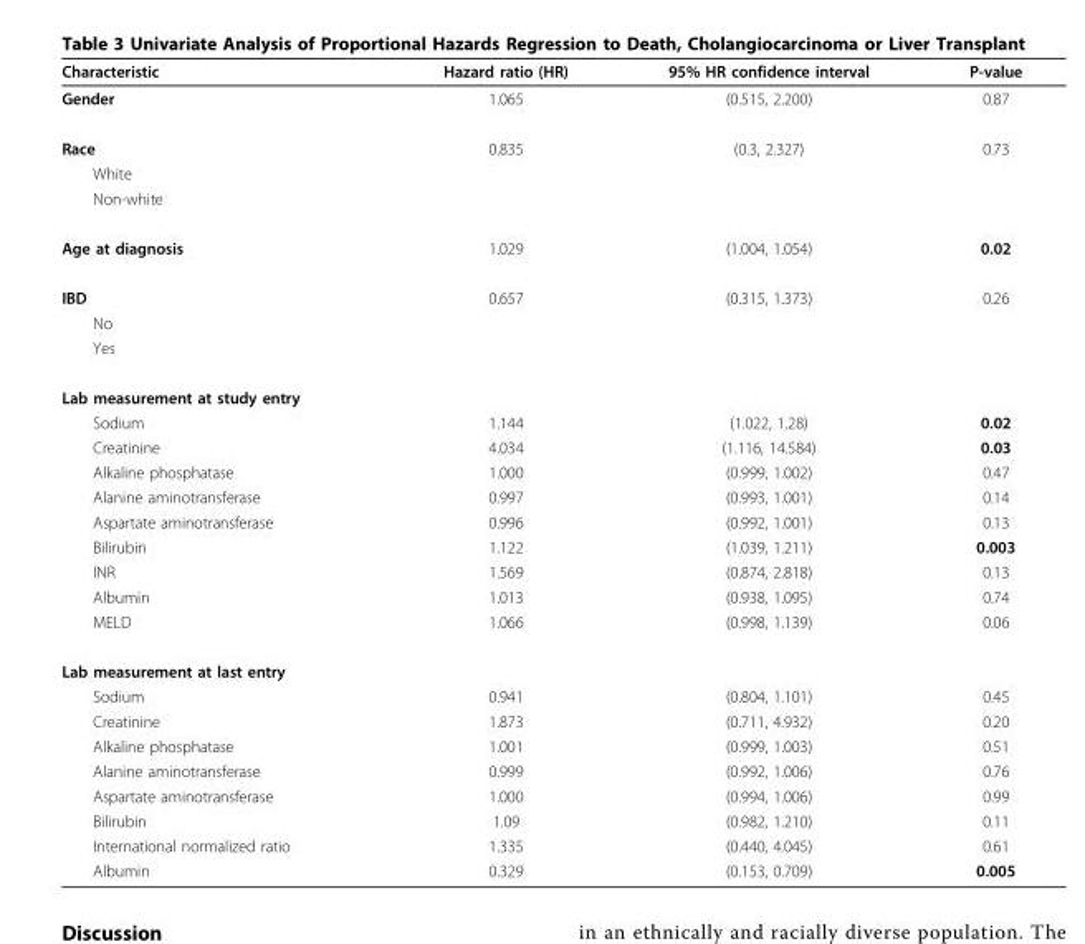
<table><thead><tr><td>Characteristic</td><td>Hazard ratio (HR)</td><td>95% HR confidence interval</td><td>P-value</td></tr></thead><tbody><tr><td>Gender</td><td>1.065</td><td>(0.515, 2.200)</td><td>0.87</td></tr><tr><td>Race</td><td>0.835</td><td>(0.3, 2.327)</td><td>0.73</td></tr><tr><td colspan="4">White</td></tr><tr><td colspan="4">Non-white</td></tr><tr><td>Age at diagnosis</td><td>1.029</td><td>(1.004, 1.054)</td><td>0.02</td></tr><tr><td>IBD</td><td>0.657</td><td>(0.315, 1.373)</td><td>0.26</td></tr><tr><td colspan="4">No</td></tr><tr><td colspan="4">Yes</td></tr><tr><td colspan="4">Lab measurement at study entry</td></tr><tr><td>Sodium</td><td>1.144</td><td>(1.022, 1.28)</td><td>0.02</td></tr><tr><td>Creatinine</td><td>4.034</td><td>(1.116, 14.584)</td><td>0.03</td></tr><tr><td>Alkaline phosphatase</td><td>1.000</td><td>(0.999, 1.002)</td><td>0.47</td></tr><tr><td>Alanine aminotransferase</td><td>0.997</td><td>(0.993, 1.001)</td><td>0.14</td></tr><tr><td>Aspartate aminotransferase</td><td>0.996</td><td>(0.992, 1.001)</td><td>0.13</td></tr><tr><td>Bilirubin</td><td>1.122</td><td>(1.039, 1.211)</td><td>0.003</td></tr><tr><td>INR</td><td>1.569</td><td>(0.874, 2.818)</td><td>0.13</td></tr><tr><td>Albumin</td><td>1.013</td><td>(0.938, 1.095)</td><td>0.74</td></tr><tr><td>MELD</td><td>1.066</td><td>(0.998, 1.139)</td><td>0.06</td></tr><tr><td colspan="4">Lab measurement at last entry</td></tr><tr><td>Sodium</td><td>0.941</td><td>(0.804, 1.101)</td><td>0.45</td></tr><tr><td>Creatinine</td><td>1.873</td><td>(0.711, 4.932)</td><td>0.20</td></tr><tr><td>Alkaline phosphatase</td><td>1.001</td><td>(0.999, 1.003)</td><td>0.51</td></tr><tr><td>Alanine aminotransferase</td><td>0.999</td><td>(0.992, 1.006)</td><td>0.76</td></tr><tr><td>Aspartate aminotransferase</td><td>1.000</td><td>(0.994, 1.006)</td><td>0.99</td></tr><tr><td>Bilirubin</td><td>1.09</td><td>(0.982, 1.210)</td><td>0.11</td></tr><tr><td>International normalized ratio</td><td>1.335</td><td>(0.440, 4.045)</td><td>0.61</td></tr><tr><td>Albumin</td><td>0.329</td><td>(0.153, 0.709)</td><td>0.005</td></tr></tbody></table>